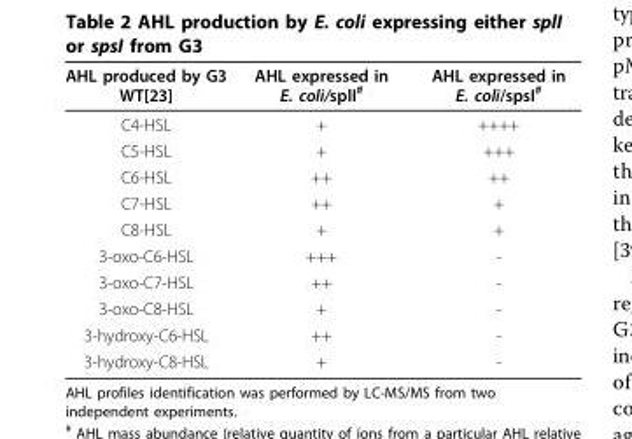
<table><thead><tr><td>AHL produced by G3 WT[23]</td><td>AHL expressed in E. coli/splI<sup>#</sup></td><td>AHL expressed in E. coli/spsI<sup>#</sup></td></tr></thead><tbody><tr><td>C4-HSL</td><td>+</td><td>++++</td></tr><tr><td>C5-HSL</td><td>+</td><td>+++</td></tr><tr><td>C6-HSL</td><td>++</td><td>++</td></tr><tr><td>C7-HSL</td><td>++</td><td>+</td></tr><tr><td>C8-HSL</td><td>+</td><td>+</td></tr><tr><td>3-oxo-C6-HSL</td><td>+++</td><td>-</td></tr><tr><td>3-oxo-C7-HSL</td><td>++</td><td>-</td></tr><tr><td>3-oxo-C8-HSL</td><td>+</td><td>-</td></tr><tr><td>3-hydroxy-C6-HSL</td><td>++</td><td>-</td></tr><tr><td>3-hydroxy-C8-HSL</td><td>+</td><td>-</td></tr></tbody></table>